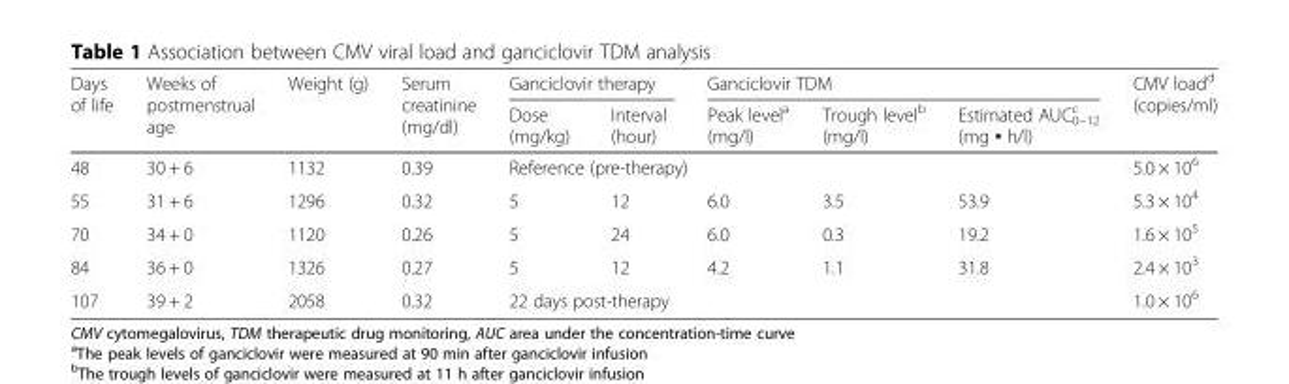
<table><thead><tr><td rowspan="2">Days of life</td><td rowspan="2">Weeks of postmenstrual age</td><td rowspan="2">Weight (g)</td><td rowspan="2">Serum creatinine (mg/dl)</td><td colspan="2">Ganciclovir therapy</td><td colspan="3">Ganciclovir TDM</td><td rowspan="2">CMV load<sup>d</sup> (copies/ml)</td></tr><tr><td>Dose (mg/kg)</td><td>Interval (hour)</td><td>Peak level<sup>a</sup> (mg/l)</td><td>Trough level<sup>b</sup> (mg/l)</td><td>Estimated AUC<sub>0–12</sub> <sup>c</sup> (mg ▪ h/l)</td></tr></thead><tbody><tr><td>48</td><td>30 + 6</td><td>1132</td><td>0.39</td><td colspan="5">Reference (pre-therapy)</td><td>5.0 × 10<sup>6</sup></td></tr><tr><td>55</td><td>31 + 6</td><td>1296</td><td>0.32</td><td>5</td><td>12</td><td>6.0</td><td>3.5</td><td>53.9</td><td>5.3 × 10<sup>4</sup></td></tr><tr><td>70</td><td>34 + 0</td><td>1120</td><td>0.26</td><td>5</td><td>24</td><td>6.0</td><td>0.3</td><td>19.2</td><td>1.6 × 10<sup>5</sup></td></tr><tr><td>84</td><td>36 + 0</td><td>1326</td><td>0.27</td><td>5</td><td>12</td><td>4.2</td><td>1.1</td><td>31.8</td><td>2.4 × 10<sup>3</sup></td></tr><tr><td>107</td><td>39 + 2</td><td>2058</td><td>0.32</td><td colspan="5">22 days post-therapy</td><td>1.0 × 10<sup>6</sup></td></tr></tbody></table>